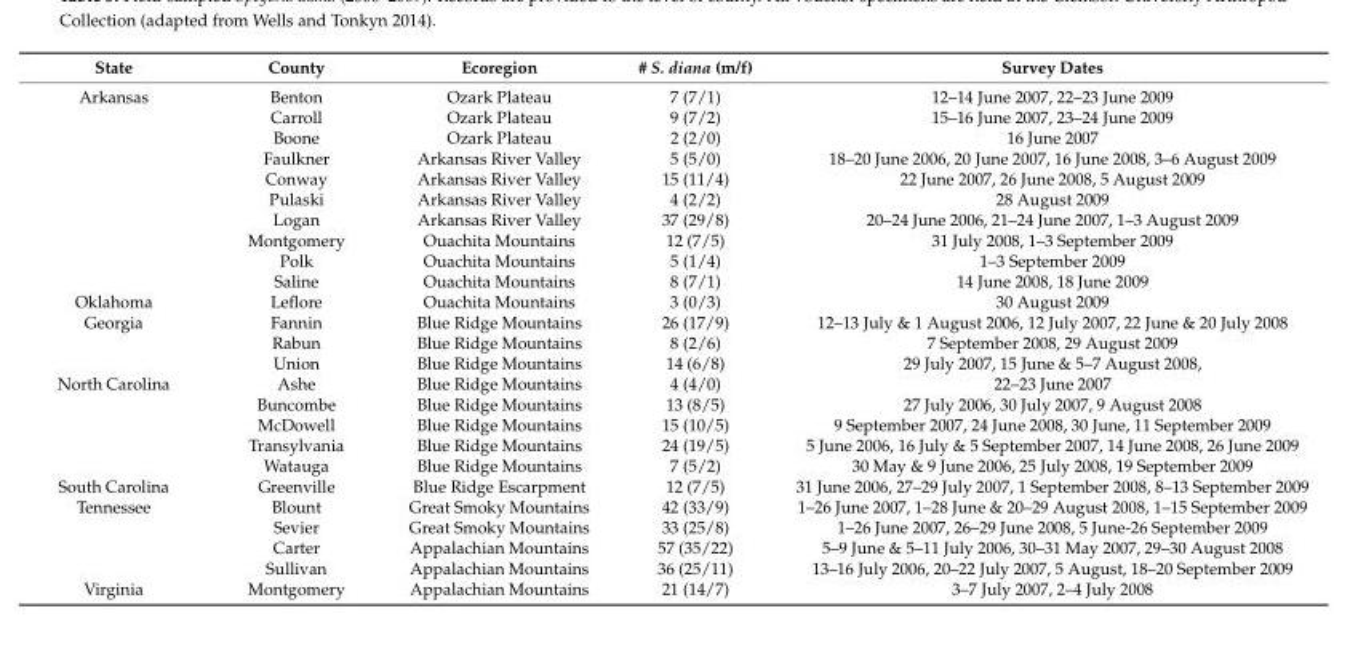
<table><thead><tr><td>State</td><td>County</td><td>Ecoregion</td><td># S. diana (m/f)</td><td>Survey Dates</td></tr></thead><tbody><tr><td rowspan="10">Arkansas</td><td>Benton</td><td>Ozark Plateau</td><td>7 (7/1)</td><td>12–14 June 2007, 22–23 June 2009</td></tr><tr><td>Carroll</td><td>Ozark Plateau</td><td>9 (7/2)</td><td>15–16 June 2007, 23–24 June 2009</td></tr><tr><td>Boone</td><td>Ozark Plateau</td><td>2 (2/0)</td><td>16 June 2007</td></tr><tr><td>Faulkner</td><td>Arkansas River Valley</td><td>5 (5/0)</td><td>18–20 June 2006, 20 June 2007, 16 June 2008, 3–6 August 2009</td></tr><tr><td>Conway</td><td>Arkansas River Valley</td><td>15 (11/4)</td><td>22 June 2007, 26 June 2008, 5 August 2009</td></tr><tr><td>Pulaski</td><td>Arkansas River Valley</td><td>4 (2/2)</td><td>28 August 2009</td></tr><tr><td>Logan</td><td>Arkansas River Valley</td><td>37 (29/8)</td><td>20–24 June 2006, 21–24 June 2007, 1–3 August 2009</td></tr><tr><td>Montgomery</td><td>Ouachita Mountains</td><td>12 (7/5)</td><td>31 July 2008, 1–3 September 2009</td></tr><tr><td>Polk</td><td>Ouachita Mountains</td><td>5 (1/4)</td><td>1–3 September 2009</td></tr><tr><td>Saline</td><td>Ouachita Mountains</td><td>8 (7/1)</td><td>14 June 2008, 18 June 2009</td></tr><tr><td>Oklahoma</td><td>Leflore</td><td>Ouachita Mountains</td><td>3 (0/3)</td><td>30 August 2009</td></tr><tr><td rowspan="3">Georgia</td><td>Fannin</td><td>Blue Ridge Mountains</td><td>26 (17/9)</td><td>12–13 July &amp; 1 August 2006, 12 July 2007, 22 June &amp; 20 July 2008</td></tr><tr><td>Rabun</td><td>Blue Ridge Mountains</td><td>8 (2/6)</td><td>7 September 2008, 29 August 2009</td></tr><tr><td>Union</td><td>Blue Ridge Mountains</td><td>14 (6/8)</td><td>29 July 2007, 15 June &amp; 5–7 August 2008,</td></tr><tr><td rowspan="5">North Carolina</td><td>Ashe</td><td>Blue Ridge Mountains</td><td>4 (4/0)</td><td>22–23 June 2007</td></tr><tr><td>Buncombe</td><td>Blue Ridge Mountains</td><td>13 (8/5)</td><td>27 July 2006, 30 July 2007, 9 August 2008</td></tr><tr><td>McDowell</td><td>Blue Ridge Mountains</td><td>15 (10/5)</td><td>9 September 2007, 24 June 2008, 30 June, 11 September 2009</td></tr><tr><td>Transylvania</td><td>Blue Ridge Mountains</td><td>24 (19/5)</td><td>5 June 2006, 16 July &amp; 5 September 2007, 14 June 2008, 26 June 2009</td></tr><tr><td>Watauga</td><td>Blue Ridge Mountains</td><td>7 (5/2)</td><td>30 May &amp; 9 June 2006, 25 July 2008, 19 September 2009</td></tr><tr><td>South Carolina</td><td>Greenville</td><td>Blue Ridge Escarpment</td><td>12 (7/5)</td><td>31 June 2006, 27–29 July 2007, 1 September 2008, 8–13 September 2009</td></tr><tr><td rowspan="4">Tennessee</td><td>Blount</td><td>Great Smoky Mountains</td><td>42 (33/9)</td><td>1–26 June 2007, 1–28 June &amp; 20–29 August 2008, 1–15 September 2009</td></tr><tr><td>Sevier</td><td>Great Smoky Mountains</td><td>33 (25/8)</td><td>1–26 June 2007, 26–29 June 2008, 5 June-26 September 2009</td></tr><tr><td>Carter</td><td>Appalachian Mountains</td><td>57 (35/22)</td><td>5–9 June &amp; 5–11 July 2006, 30–31 May 2007, 29–30 August 2008</td></tr><tr><td>Sullivan</td><td>Appalachian Mountains</td><td>36 (25/11)</td><td>13–16 July 2006, 20–22 July 2007, 5 August, 18–20 September 2009</td></tr><tr><td>Virginia</td><td>Montgomery</td><td>Appalachian Mountains</td><td>21 (14/7)</td><td>3–7 July 2007, 2–4 July 2008</td></tr></tbody></table>